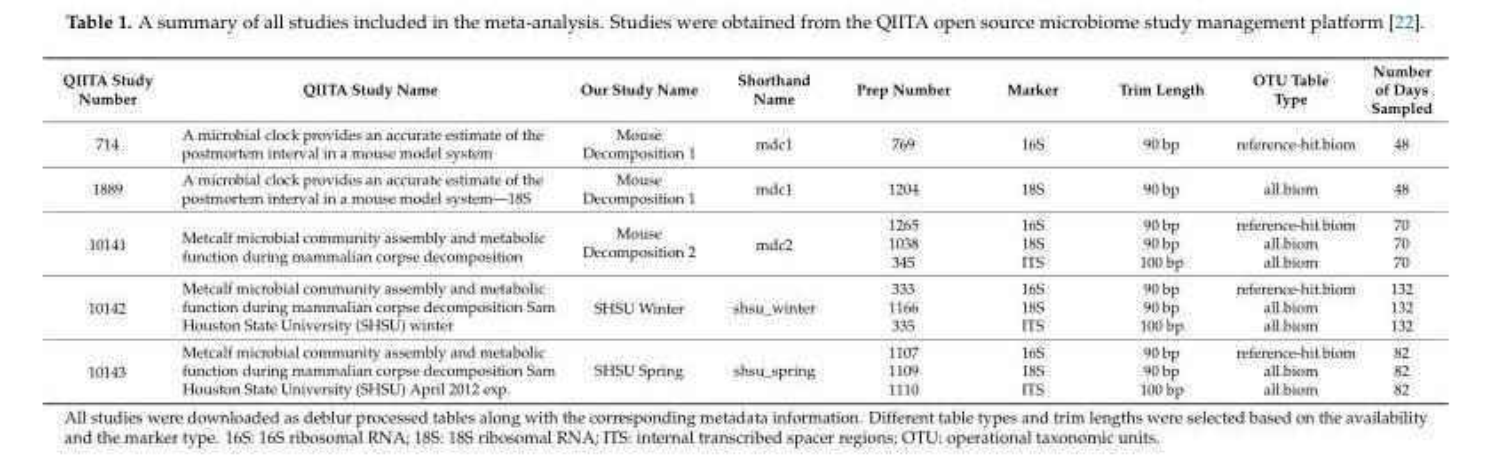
<table><thead><tr><td>QIITA Study Number</td><td>QIITA Study Name</td><td>Our Study Name</td><td>Shorthand Name</td><td>Prep Number</td><td>Marker</td><td>Trim Length</td><td>OTU Table Type</td><td>Number of Days Sampled</td></tr></thead><tbody><tr><td>714</td><td>A microbial clock provides an accurate estimate of the postmortem interval in a mouse model system</td><td>Mouse Decomposition 1</td><td>mdc1</td><td>769</td><td>16S</td><td>90 bp</td><td>reference-hit.biom</td><td>48</td></tr><tr><td>1889</td><td>A microbial clock provides an accurate estimate of the postmortem interval in a mouse model system—18S</td><td>Mouse Decomposition 1</td><td>mdc1</td><td>1204</td><td>18S</td><td>90 bp</td><td>all.biom</td><td>48</td></tr><tr><td rowspan="3">10141</td><td rowspan="3">Metcalf microbial community assembly and metabolic function during mammalian corpse decomposition</td><td rowspan="3">Mouse Decomposition 2</td><td rowspan="3">mdc2</td><td>1265</td><td>16S</td><td>90 bp</td><td>reference-hit.biom</td><td>70</td></tr><tr><td>1038</td><td>18S</td><td>90 bp</td><td>all.biom</td><td>70</td></tr><tr><td>345</td><td>ITS</td><td>100 bp</td><td>all.biom</td><td>70</td></tr><tr><td rowspan="3">10142</td><td rowspan="3">Metcalf microbial community assembly and metabolic function during mammalian corpse decomposition Sam Houston State University (SHSU) winter</td><td rowspan="3">SHSU Winter</td><td rowspan="3">shsu_winter</td><td>333</td><td>16S</td><td>90 bp</td><td>reference-hit.biom</td><td>132</td></tr><tr><td>1166</td><td>18S</td><td>90 bp</td><td>all.biom</td><td>132</td></tr><tr><td>335</td><td>ITS</td><td>100 bp</td><td>all.biom</td><td>132</td></tr><tr><td rowspan="3">10143</td><td rowspan="3">Metcalf microbial community assembly and metabolic function during mammalian corpse decomposition Sam Houston State University (SHSU) April 2012 exp.</td><td rowspan="3">SHSU Spring</td><td rowspan="3">shsu_spring</td><td>1107</td><td>16S</td><td>90 bp</td><td>reference-hit.biom</td><td>82</td></tr><tr><td>1109</td><td>18S</td><td>90 bp</td><td>all.biom</td><td>82</td></tr><tr><td>1110</td><td>ITS</td><td>100 bp</td><td>all.biom</td><td>82</td></tr></tbody></table>